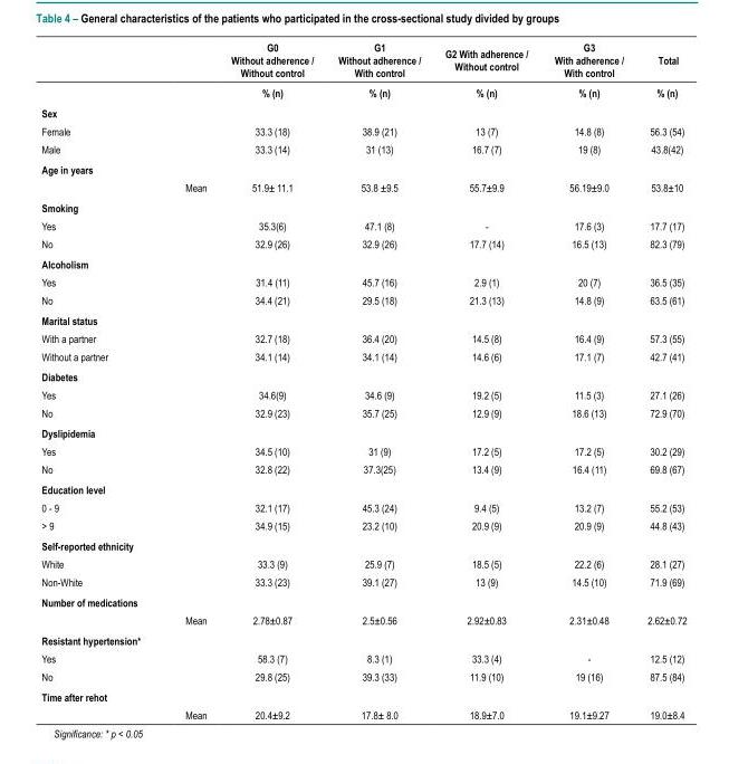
<table><thead><tr><td></td><td></td><td>G0 Without adherence / Without control</td><td>G1 Without adherence / With control</td><td>G2 With adherence / Without control</td><td>G3 With adherence / With control</td><td>Total</td></tr></thead><tbody><tr><td></td><td></td><td>% (n)</td><td>% (n)</td><td>% (n)</td><td>% (n)</td><td>% (n)</td></tr><tr><td colspan="7">Sex</td></tr><tr><td>Female</td><td></td><td>33.3 (18)</td><td>38.9 (21)</td><td>13 (7)</td><td>14.8 (8)</td><td>56.3 (54)</td></tr><tr><td>Male</td><td></td><td>33.3 (14)</td><td>31 (13)</td><td>16.7 (7)</td><td>19 (8)</td><td>43.8(42)</td></tr><tr><td colspan="7">Age in years</td></tr><tr><td></td><td>Mean</td><td>51.9± 11.1</td><td>53.8 ±9.5</td><td>55.7±9.9</td><td>56.19±9.0</td><td>53.8±10</td></tr><tr><td colspan="7">Smoking</td></tr><tr><td>Yes</td><td></td><td>35.3(6)</td><td>47.1 (8)</td><td>-</td><td>17.6 (3)</td><td>17.7 (17)</td></tr><tr><td>No</td><td></td><td>32.9 (26)</td><td>32.9 (26)</td><td>17.7 (14)</td><td>16.5 (13)</td><td>82.3 (79)</td></tr><tr><td colspan="7">Alcoholism</td></tr><tr><td>Yes</td><td></td><td>31.4 (11)</td><td>45.7 (16)</td><td>2.9 (1)</td><td>20 (7)</td><td>36.5 (35)</td></tr><tr><td>No</td><td></td><td>34.4 (21)</td><td>29.5 (18)</td><td>21.3 (13)</td><td>14.8 (9)</td><td>63.5 (61)</td></tr><tr><td colspan="7">Marital status</td></tr><tr><td>With a partner</td><td></td><td>32.7 (18)</td><td>36.4 (20)</td><td>14.5 (8)</td><td>16.4 (9)</td><td>57.3 (55)</td></tr><tr><td>Without a partner</td><td></td><td>34.1 (14)</td><td>34.1 (14)</td><td>14.6 (6)</td><td>17.1 (7)</td><td>42.7 (41)</td></tr><tr><td colspan="7">Diabetes</td></tr><tr><td>Yes</td><td></td><td>34.6(9)</td><td>34.6 (9)</td><td>19.2 (5)</td><td>11.5 (3)</td><td>27.1 (26)</td></tr><tr><td>No</td><td></td><td>32.9 (23)</td><td>35.7 (25)</td><td>12.9 (9)</td><td>18.6 (13)</td><td>72.9 (70)</td></tr><tr><td colspan="7">Dyslipidemia</td></tr><tr><td>Yes</td><td></td><td>34.5 (10)</td><td>31 (9)</td><td>17.2 (5)</td><td>17.2 (5)</td><td>30.2 (29)</td></tr><tr><td>No</td><td></td><td>32.8 (22)</td><td>37.3(25)</td><td>13.4 (9)</td><td>16.4 (11)</td><td>69.8 (67)</td></tr><tr><td colspan="7">Education level</td></tr><tr><td>0 - 9</td><td></td><td>32.1 (17)</td><td>45.3 (24)</td><td>9.4 (5)</td><td>13.2 (7)</td><td>55.2 (53)</td></tr><tr><td>&gt; 9</td><td></td><td>34.9 (15)</td><td>23.2 (10)</td><td>20.9 (9)</td><td>20.9 (9)</td><td>44.8 (43)</td></tr><tr><td colspan="7">Self-reported ethnicity</td></tr><tr><td>White</td><td></td><td>33.3 (9)</td><td>25.9 (7)</td><td>18.5 (5)</td><td>22.2 (6)</td><td>28.1 (27)</td></tr><tr><td>Non-White</td><td></td><td>33.3 (23)</td><td>39.1 (27)</td><td>13 (9)</td><td>14.5 (10)</td><td>71.9 (69)</td></tr><tr><td colspan="7">Number of medications</td></tr><tr><td></td><td>Mean</td><td>2.78±0.87</td><td>2.5±0.56</td><td>2.92±0.83</td><td>2.31±0.48</td><td>2.62±0.72</td></tr><tr><td colspan="7">Resistant hypertension*</td></tr><tr><td>Yes</td><td></td><td>58.3 (7)</td><td>8.3 (1)</td><td>33.3 (4)</td><td>-</td><td>12.5 (12)</td></tr><tr><td>No</td><td></td><td>29.8 (25)</td><td>39.3 (33)</td><td>11.9 (10)</td><td>19 (16)</td><td>87.5 (84)</td></tr><tr><td colspan="7">Time after rehot</td></tr><tr><td></td><td>Mean</td><td>20.4±9.2</td><td>17.8± 8.0</td><td>18.9±7.0</td><td>19.1±9.27</td><td>19.0±8.4</td></tr></tbody></table>